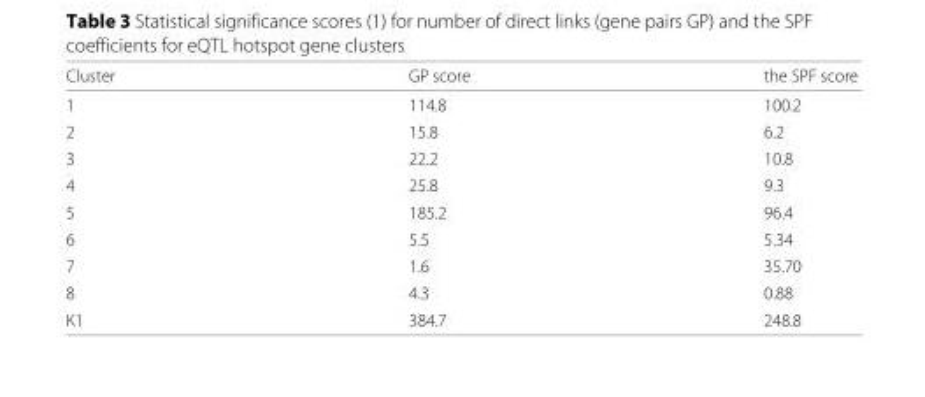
<table><thead><tr><td>Cluster</td><td>GP score</td><td>the SPF score</td></tr></thead><tbody><tr><td>1</td><td>114.8</td><td>100.2</td></tr><tr><td>2</td><td>15.8</td><td>6.2</td></tr><tr><td>3</td><td>22.2</td><td>10.8</td></tr><tr><td>4</td><td>25.8</td><td>9.3</td></tr><tr><td>5</td><td>185.2</td><td>96.4</td></tr><tr><td>6</td><td>5.5</td><td>5.34</td></tr><tr><td>7</td><td>1.6</td><td>35.70</td></tr><tr><td>8</td><td>4.3</td><td>0.88</td></tr><tr><td>K1</td><td>384.7</td><td>248.8</td></tr></tbody></table>